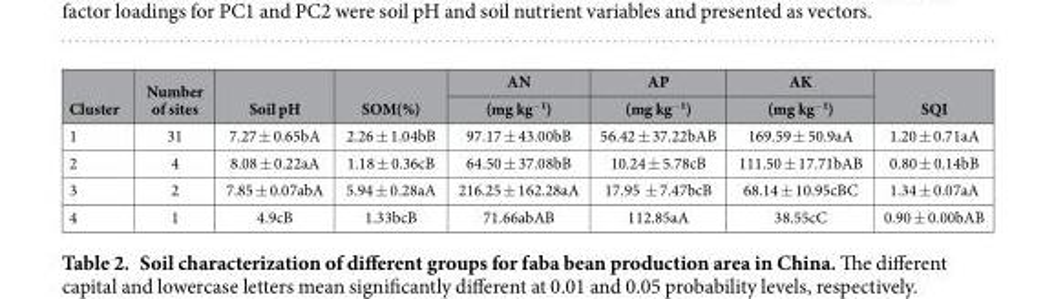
<table><thead><tr><td rowspan="2">Cluster</td><td rowspan="2">Number of sites</td><td rowspan="2">Soil pH</td><td rowspan="2">SOM(%)</td><td rowspan="2">AN (mg kg<sup>−1</sup>)</td><td rowspan="2">AP (mg kg<sup>−1</sup>)</td><td rowspan="2">AK (mg kg<sup>−1</sup>)</td><td rowspan="2">SQI</td></tr><tr></tr></thead><tbody><tr><td>1</td><td>31</td><td>7.27 ± 0.65bA</td><td>2.26 ± 1.04bB</td><td>97.17 ± 43.00bB</td><td>56.42 ± 37.22bAB</td><td>169.59 ± 50.9aA</td><td>1.20 ± 0.71aA</td></tr><tr><td>2</td><td>4</td><td>8.08 ± 0.22aA</td><td>1.18 ± 0.36cB</td><td>64.50 ± 37.08bB</td><td>10.24 ± 5.78cB</td><td>111.50 ± 17.71bAB</td><td>0.80 ± 0.14bB</td></tr><tr><td>3</td><td>2</td><td>7.85 ± 0.07abA</td><td>5.94 ± 0.28aA</td><td>216.25 ± 162.28aA</td><td>17.95 ± 7.47bcB</td><td>68.14 ± 10.95cBC</td><td>1.34 ± 0.07aA</td></tr><tr><td>4</td><td>1</td><td>4.9cB</td><td>1.33bcB</td><td>71.66abAB</td><td>112.85aA</td><td>38.55cC</td><td>0.90 ± 0.00bAB</td></tr></tbody></table>